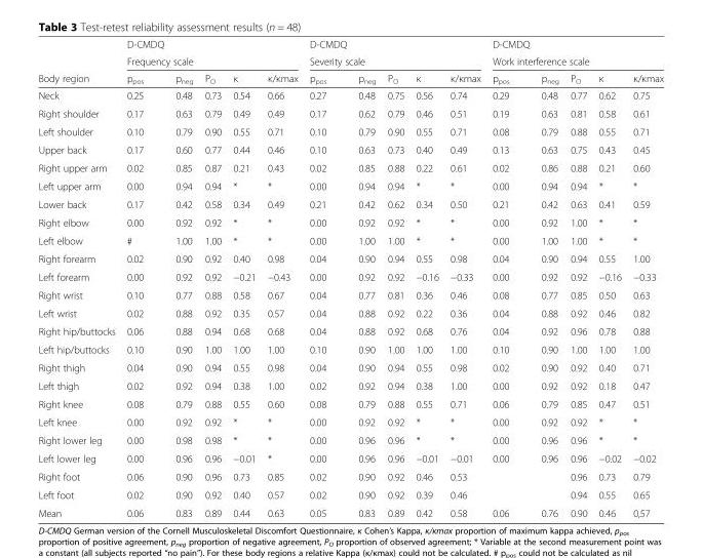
<table><thead><tr><td rowspan="3">Body region</td><td>D-CMDQ</td><td></td><td></td><td></td><td></td><td>D-CMDQ</td><td></td><td></td><td></td><td></td><td>D-CMDQ</td><td></td><td></td><td></td><td></td></tr><tr><td colspan="5">Frequency scale</td><td colspan="5">Severity scale</td><td colspan="5">Work interference scale</td></tr><tr><td>p<sub>pos</sub></td><td>p<sub>neg</sub></td><td>P<sub>O</sub></td><td>κ</td><td>κ/κmax</td><td>p<sub>pos</sub></td><td>p<sub>neg</sub></td><td>P<sub>O</sub></td><td>κ</td><td>κ/κmax</td><td>p<sub>pos</sub></td><td>p<sub>neg</sub></td><td>P<sub>Ο</sub></td><td>κ</td><td>κ/κmax</td></tr></thead><tbody><tr><td>Neck</td><td>0.25</td><td>0.48</td><td>0.73</td><td>0.54</td><td>0.66</td><td>0.27</td><td>0.48</td><td>0.75</td><td>0.56</td><td>0.74</td><td>0.29</td><td>0.48</td><td>0.77</td><td>0.62</td><td>0.75</td></tr><tr><td>Right shoulder</td><td>0.17</td><td>0.63</td><td>0.79</td><td>0.49</td><td>0.49</td><td>0.17</td><td>0.62</td><td>0.79</td><td>0.46</td><td>0.51</td><td>0.19</td><td>0.63</td><td>0.81</td><td>0.58</td><td>0.61</td></tr><tr><td>Left shoulder</td><td>0.10</td><td>0.79</td><td>0.90</td><td>0.55</td><td>0.71</td><td>0.10</td><td>0.79</td><td>0.90</td><td>0.55</td><td>0.71</td><td>0.08</td><td>0.79</td><td>0.88</td><td>0.55</td><td>0.71</td></tr><tr><td>Upper back</td><td>0.17</td><td>0.60</td><td>0.77</td><td>0.44</td><td>0.46</td><td>0.10</td><td>0.63</td><td>0.73</td><td>0.40</td><td>0.49</td><td>0.13</td><td>0.63</td><td>0.75</td><td>0.43</td><td>0.45</td></tr><tr><td>Right upper arm</td><td>0.02</td><td>0.85</td><td>0.87</td><td>0.21</td><td>0.43</td><td>0.02</td><td>0.85</td><td>0.88</td><td>0.22</td><td>0.61</td><td>0.02</td><td>0.86</td><td>0.88</td><td>0.21</td><td>0.60</td></tr><tr><td>Left upper arm</td><td>0.00</td><td>0.94</td><td>0.94</td><td>*</td><td>*</td><td>0.00</td><td>0.94</td><td>0.94</td><td>*</td><td>*</td><td>0.00</td><td>0.94</td><td>0.94</td><td>*</td><td>*</td></tr><tr><td>Lower back</td><td>0.17</td><td>0.42</td><td>0.58</td><td>0.34</td><td>0.49</td><td>0.21</td><td>0.42</td><td>0.62</td><td>0.34</td><td>0.50</td><td>0.21</td><td>0.42</td><td>0.63</td><td>0.41</td><td>0.59</td></tr><tr><td>Right elbow</td><td>0.00</td><td>0.92</td><td>0.92</td><td>*</td><td>*</td><td>0.00</td><td>0.92</td><td>0.92</td><td>*</td><td>*</td><td>0.00</td><td>0.92</td><td>1.00</td><td>*</td><td>*</td></tr><tr><td>Left elbow</td><td>#</td><td>1.00</td><td>1.00</td><td>*</td><td>*</td><td>0.00</td><td>1.00</td><td>1.00</td><td>*</td><td>*</td><td>0.00</td><td>1.00</td><td>1.00</td><td>*</td><td>*</td></tr><tr><td>Right forearm</td><td>0.02</td><td>0.90</td><td>0.92</td><td>0.40</td><td>0.98</td><td>0.04</td><td>0.90</td><td>0.94</td><td>0.55</td><td>0.98</td><td>0.04</td><td>0.90</td><td>0.94</td><td>0.55</td><td>1.00</td></tr><tr><td>Left forearm</td><td>0.00</td><td>0.92</td><td>0.92</td><td>−0.21</td><td>−0.43</td><td>0.00</td><td>0.92</td><td>0.92</td><td>−0.16</td><td>−0.33</td><td>0.00</td><td>0.92</td><td>0.92</td><td>−0.16</td><td>−0.33</td></tr><tr><td>Right wrist</td><td>0.10</td><td>0.77</td><td>0.88</td><td>0.58</td><td>0.67</td><td>0.04</td><td>0.77</td><td>0.81</td><td>0.36</td><td>0.46</td><td>0.08</td><td>0.77</td><td>0.85</td><td>0.50</td><td>0.63</td></tr><tr><td>Left wrist</td><td>0.02</td><td>0.88</td><td>0.92</td><td>0.35</td><td>0.57</td><td>0.04</td><td>0.88</td><td>0.92</td><td>0.22</td><td>0.36</td><td>0.04</td><td>0.88</td><td>0.92</td><td>0.46</td><td>0.82</td></tr><tr><td>Right hip/buttocks</td><td>0.06</td><td>0.88</td><td>0.94</td><td>0.68</td><td>0.68</td><td>0.04</td><td>0.88</td><td>0.92</td><td>0.68</td><td>0.76</td><td>0.04</td><td>0.92</td><td>0.96</td><td>0.78</td><td>0.88</td></tr><tr><td>Left hip/buttocks</td><td>0.10</td><td>0.90</td><td>1.00</td><td>1.00</td><td>1.00</td><td>0.10</td><td>0.90</td><td>1.00</td><td>1.00</td><td>1.00</td><td>0.10</td><td>0.90</td><td>1.00</td><td>1.00</td><td>1.00</td></tr><tr><td>Right thigh</td><td>0.04</td><td>0.90</td><td>0.94</td><td>0.55</td><td>0.98</td><td>0.04</td><td>0.90</td><td>0.94</td><td>0.55</td><td>0.98</td><td>0.02</td><td>0.90</td><td>0.92</td><td>0.40</td><td>0.71</td></tr><tr><td>Left thigh</td><td>0.02</td><td>0.92</td><td>0.94</td><td>0.38</td><td>1.00</td><td>0.02</td><td>0.92</td><td>0.94</td><td>0.38</td><td>1.00</td><td>0.00</td><td>0.92</td><td>0.92</td><td>0.18</td><td>0.47</td></tr><tr><td>Right knee</td><td>0.08</td><td>0.79</td><td>0.88</td><td>0.55</td><td>0.60</td><td>0.08</td><td>0.79</td><td>0.88</td><td>0.55</td><td>0.71</td><td>0.06</td><td>0.79</td><td>0.85</td><td>0.47</td><td>0.51</td></tr><tr><td>Left knee</td><td>0.00</td><td>0.92</td><td>0.92</td><td>*</td><td>*</td><td>0.00</td><td>0.92</td><td>0.92</td><td>*</td><td>*</td><td>0.00</td><td>0.92</td><td>0.92</td><td>*</td><td>*</td></tr><tr><td>Right lower leg</td><td>0.00</td><td>0.98</td><td>0.98</td><td>*</td><td>*</td><td>0.00</td><td>0.96</td><td>0.96</td><td>*</td><td>*</td><td>0.00</td><td>0.96</td><td>0.96</td><td>*</td><td>*</td></tr><tr><td>Left lower leg</td><td>0.00</td><td>0.96</td><td>0.96</td><td>−0.01</td><td>*</td><td>0.00</td><td>0.96</td><td>0.96</td><td>−0.01</td><td>−0.01</td><td>0.00</td><td>0.96</td><td>0.96</td><td>−0.02</td><td>−0.02</td></tr><tr><td>Right foot</td><td>0.06</td><td>0.90</td><td>0.96</td><td>0.73</td><td>0.85</td><td>0.02</td><td>0.90</td><td>0.92</td><td>0.46</td><td>0.53</td><td></td><td></td><td>0.96</td><td>0.73</td><td>0.79</td></tr><tr><td>Left foot</td><td>0.02</td><td>0.90</td><td>0.92</td><td>0.40</td><td>0.57</td><td>0.02</td><td>0.90</td><td>0.92</td><td>0.39</td><td>0.46</td><td></td><td></td><td>0.94</td><td>0.55</td><td>0.65</td></tr><tr><td>Mean</td><td>0.06</td><td>0.83</td><td>0.89</td><td>0.44</td><td>0.63</td><td>0.05</td><td>0.83</td><td>0.89</td><td>0.42</td><td>0.58</td><td>0.06</td><td>0.76</td><td>0.90</td><td>0.46</td><td>0,57</td></tr></tbody></table>